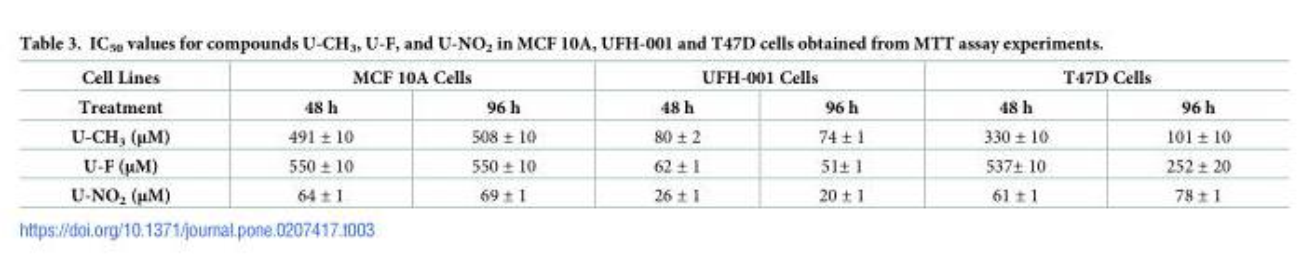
<table><thead><tr><td rowspan="2">Cell Lines Treatment</td><td colspan="2">MCF 10A Cells</td><td colspan="2">UFH-001 Cells</td><td colspan="2">T47D Cells</td></tr><tr><td>48 h</td><td>96 h</td><td>48 h</td><td>96 h</td><td>48 h</td><td>96 h</td></tr></thead><tbody><tr><td>U-CH3 (μM)</td><td>491 ± 10</td><td>508 ± 10</td><td>80 ± 2</td><td>74 ± 1</td><td>330 ± 10</td><td>101 ± 10</td></tr><tr><td>U-F (μM)</td><td>550 ± 10</td><td>550 ± 10</td><td>62 ± 1</td><td>51± 1</td><td>537± 10</td><td>252 ± 20</td></tr><tr><td>U-NO2 (μM)</td><td>64 ± 1</td><td>69 ± 1</td><td>26 ± 1</td><td>20 ± 1</td><td>61 ± 1</td><td>78 ± 1</td></tr></tbody></table>